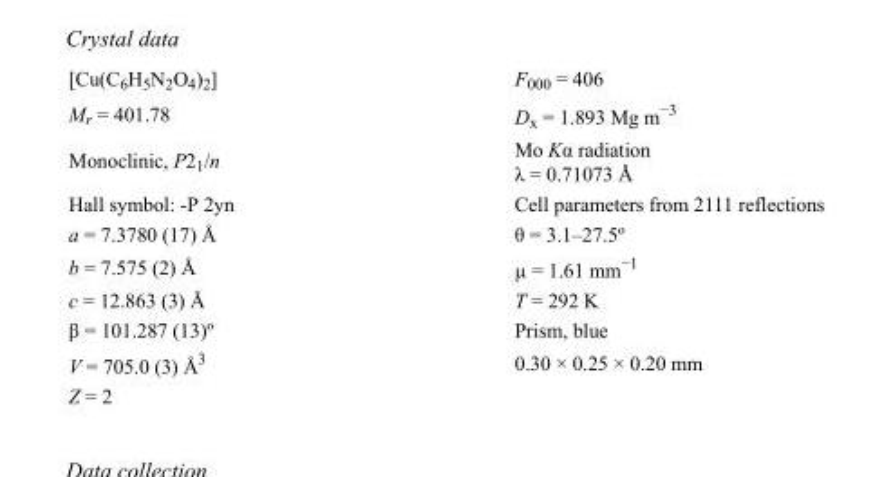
<table><tbody><tr><td>[Cu(C<sub>6</sub>H<sub>5</sub>N<sub>2</sub>O<sub>4</sub>)<sub>2</sub>]</td><td>F000 = 406</td></tr><tr><td>M<sub>r</sub> = 401.78</td><td>D<sub>x</sub> = 1.893 Mg m<sup>−3</sup></td></tr><tr><td>Monoclinic, P2<sub>1</sub>/n</td><td>Mo Kα radiation λ = 0.71073 Å</td></tr><tr><td>Hall symbol: -P 2yn</td><td>Cell parameters from 2111 reflections</td></tr><tr><td>a = 7.3780 (17) Å</td><td>θ = 3.1–27.5º</td></tr><tr><td>b = 7.575 (2) Å</td><td>µ = 1.61 mm<sup>−1</sup></td></tr><tr><td>c = 12.863 (3) Å</td><td>T = 292 K</td></tr><tr><td>β = 101.287 (13)º</td><td>Prism, blue</td></tr><tr><td>V = 705.0 (3) Å<sup>3</sup></td><td>0.30 × 0.25 × 0.20 mm</td></tr><tr><td>Z = 2</td><td></td></tr></tbody></table>